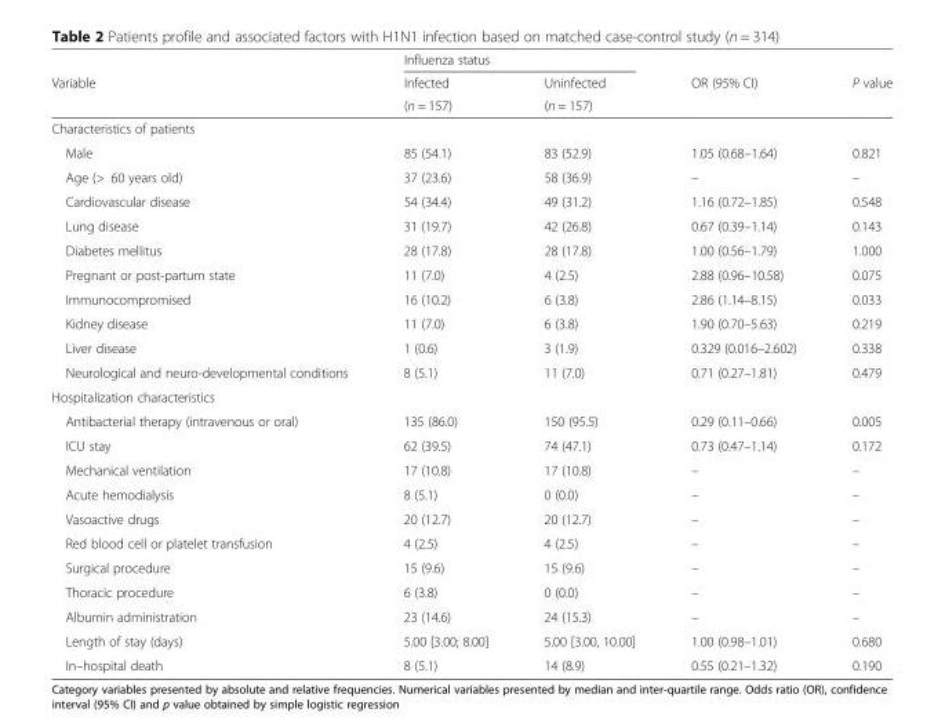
<table><thead><tr><td rowspan="3">Variable</td><td colspan="2">Influenza status</td><td rowspan="3">OR (95% CI)</td><td rowspan="3">P value</td></tr><tr><td rowspan="2">Infected (n = 157)</td><td rowspan="2">Uninfected (n = 157)</td></tr><tr></tr></thead><tbody><tr><td colspan="5">Characteristics of patients</td></tr><tr><td>Male</td><td>85 (54.1)</td><td>83 (52.9)</td><td>1.05 (0.68–1.64)</td><td>0.821</td></tr><tr><td>Age (&gt; 60 years old)</td><td>37 (23.6)</td><td>58 (36.9)</td><td>–</td><td>–</td></tr><tr><td>Cardiovascular disease</td><td>54 (34.4)</td><td>49 (31.2)</td><td>1.16 (0.72–1.85)</td><td>0.548</td></tr><tr><td>Lung disease</td><td>31 (19.7)</td><td>42 (26.8)</td><td>0.67 (0.39–1.14)</td><td>0.143</td></tr><tr><td>Diabetes mellitus</td><td>28 (17.8)</td><td>28 (17.8)</td><td>1.00 (0.56–1.79)</td><td>1.000</td></tr><tr><td>Pregnant or post-partum state</td><td>11 (7.0)</td><td>4 (2.5)</td><td>2.88 (0.96–10.58)</td><td>0.075</td></tr><tr><td>Immunocompromised</td><td>16 (10.2)</td><td>6 (3.8)</td><td>2.86 (1.14–8.15)</td><td>0.033</td></tr><tr><td>Kidney disease</td><td>11 (7.0)</td><td>6 (3.8)</td><td>1.90 (0.70–5.63)</td><td>0.219</td></tr><tr><td>Liver disease</td><td>1 (0.6)</td><td>3 (1.9)</td><td>0.329 (0.016–2.602)</td><td>0.338</td></tr><tr><td>Neurological and neuro-developmental conditions</td><td>8 (5.1)</td><td>11 (7.0)</td><td>0.71 (0.27–1.81)</td><td>0.479</td></tr><tr><td colspan="5">Hospitalization characteristics</td></tr><tr><td>Antibacterial therapy (intravenous or oral)</td><td>135 (86.0)</td><td>150 (95.5)</td><td>0.29 (0.11–0.66)</td><td>0.005</td></tr><tr><td>ICU stay</td><td>62 (39.5)</td><td>74 (47.1)</td><td>0.73 (0.47–1.14)</td><td>0.172</td></tr><tr><td>Mechanical ventilation</td><td>17 (10.8)</td><td>17 (10.8)</td><td>–</td><td>–</td></tr><tr><td>Acute hemodialysis</td><td>8 (5.1)</td><td>0 (0.0)</td><td>–</td><td>–</td></tr><tr><td>Vasoactive drugs</td><td>20 (12.7)</td><td>20 (12.7)</td><td>–</td><td>–</td></tr><tr><td>Red blood cell or platelet transfusion</td><td>4 (2.5)</td><td>4 (2.5)</td><td>–</td><td>–</td></tr><tr><td>Surgical procedure</td><td>15 (9.6)</td><td>15 (9.6)</td><td>–</td><td>–</td></tr><tr><td>Thoracic procedure</td><td>6 (3.8)</td><td>0 (0.0)</td><td>–</td><td>–</td></tr><tr><td>Albumin administration</td><td>23 (14.6)</td><td>24 (15.3)</td><td>–</td><td>–</td></tr><tr><td>Length of stay (days)</td><td>5.00 [3.00; 8.00]</td><td>5.00 [3.00, 10.00]</td><td>1.00 (0.98–1.01)</td><td>0.680</td></tr><tr><td>In–hospital death</td><td>8 (5.1)</td><td>14 (8.9)</td><td>0.55 (0.21–1.32)</td><td>0.190</td></tr></tbody></table>